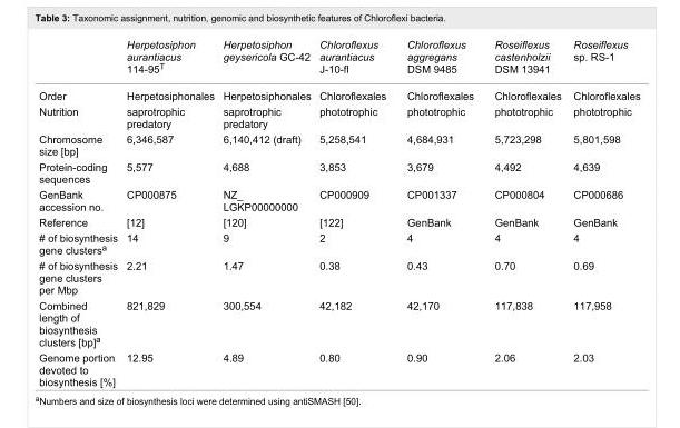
<table><thead><tr><td></td><td>Herpetosiphon aurantiacus 114-95<sup>T</sup></td><td>Herpetosiphon geysericola GC-42</td><td>Chloroflexus aurantiacus J-10-fl</td><td>Chloroflexus aggregans DSM 9485</td><td>Roseiflexus castenholzii DSM 13941</td><td>Roseiflexus sp. RS-1</td></tr></thead><tbody><tr><td>Order</td><td>Herpetosiphonales</td><td>Herpetosiphonales</td><td>Chloroflexales</td><td>Chloroflexales</td><td>Chloroflexales</td><td>Chloroflexales</td></tr><tr><td>Nutrition</td><td>saprotrophic predatory</td><td>saprotrophic predatory</td><td>phototrophic</td><td>phototrophic</td><td>phototrophic</td><td>phototrophic</td></tr><tr><td>Chromosome size [bp]</td><td>6,346,587</td><td>6,140,412 (draft)</td><td>5,258,541</td><td>4,684,931</td><td>5,723,298</td><td>5,801,598</td></tr><tr><td>Protein-coding sequences</td><td>5,577</td><td>4,688</td><td>3,853</td><td>3,679</td><td>4,492</td><td>4,639</td></tr><tr><td>GenBank accession no.</td><td>CP000875</td><td>NZ_ LGKP00000000</td><td>CP000909</td><td>CP001337</td><td>CP000804</td><td>CP000686</td></tr><tr><td>Reference</td><td>[12]</td><td>[120]</td><td>[122]</td><td>GenBank</td><td>GenBank</td><td>GenBank</td></tr><tr><td># of biosynthesis gene clusters<sup>a</sup></td><td>14</td><td>9</td><td>2</td><td>4</td><td>4</td><td>4</td></tr><tr><td># of biosynthesis gene clusters per Mbp</td><td>2.21</td><td>1.47</td><td>0.38</td><td>0.43</td><td>0.70</td><td>0.69</td></tr><tr><td>Combined length of biosynthesis clusters [bp]<sup>a</sup></td><td>821,829</td><td>300,554</td><td>42,182</td><td>42,170</td><td>117,838</td><td>117,958</td></tr><tr><td>Genome portion devoted to biosynthesis [%]</td><td>12.95</td><td>4.89</td><td>0.80</td><td>0.90</td><td>2.06</td><td>2.03</td></tr></tbody></table>